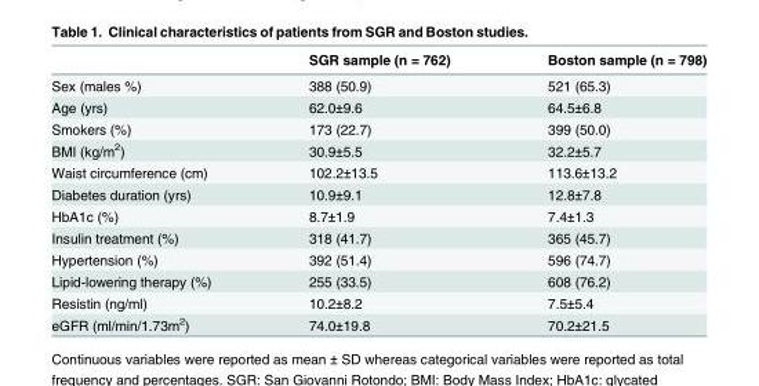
<table><thead><tr><td></td><td>SGR sample (n = 762)</td><td>Boston sample (n = 798)</td></tr></thead><tbody><tr><td>Sex (males %)</td><td>388 (50.9)</td><td>521 (65.3)</td></tr><tr><td>Age (yrs)</td><td>62.0±9.6</td><td>64.5±6.8</td></tr><tr><td>Smokers (%)</td><td>173 (22.7)</td><td>399 (50.0)</td></tr><tr><td>BMI (kg/m<sup>2</sup>)</td><td>30.9±5.5</td><td>32.2±5.7</td></tr><tr><td>Waist circumference (cm)</td><td>102.2±13.5</td><td>113.6±13.2</td></tr><tr><td>Diabetes duration (yrs)</td><td>10.9±9.1</td><td>12.8±7.8</td></tr><tr><td>HbA1c (%)</td><td>8.7±1.9</td><td>7.4±1.3</td></tr><tr><td>Insulin treatment (%)</td><td>318 (41.7)</td><td>365 (45.7)</td></tr><tr><td>Hypertension (%)</td><td>392 (51.4)</td><td>596 (74.7)</td></tr><tr><td>Lipid-lowering therapy (%)</td><td>255 (33.5)</td><td>608 (76.2)</td></tr><tr><td>Resistin (ng/ml)</td><td>10.2±8.2</td><td>7.5±5.4</td></tr><tr><td>eGFR (ml/min/1.73m<sup>2</sup>)</td><td>74.0±19.8</td><td>70.2±21.5</td></tr></tbody></table>